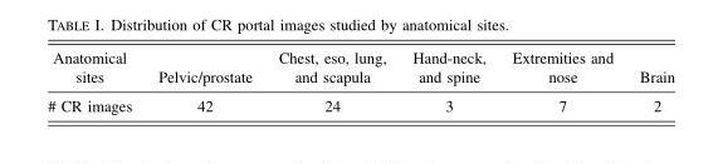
<table><thead><tr><td>Anatomical sites</td><td>Pelvic/prostate</td><td>Chest, eso, lung, and scapula</td><td>Hand-neck, and spine</td><td>Extremities and nose</td><td>Brain</td></tr></thead><tbody><tr><td># CR images</td><td>42</td><td>24</td><td>3</td><td>7</td><td>2</td></tr></tbody></table>